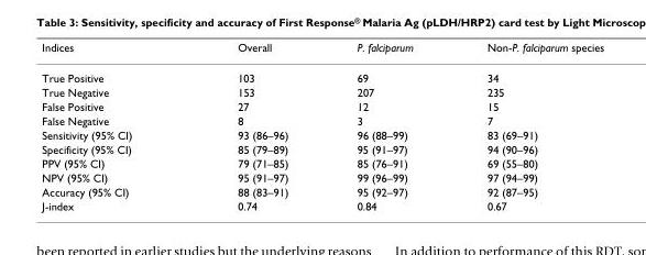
<table><thead><tr><td>Indices</td><td>Overall</td><td>P. falciparum</td><td>Non-P. falciparum species</td></tr></thead><tbody><tr><td>True Positive</td><td>103</td><td>69</td><td>34</td></tr><tr><td>True Negative</td><td>153</td><td>207</td><td>235</td></tr><tr><td>False Positive</td><td>27</td><td>12</td><td>15</td></tr><tr><td>False Negative</td><td>8</td><td>3</td><td>7</td></tr><tr><td>Sensitivity (95% CI)</td><td>93 (86–96)</td><td>96 (88–99)</td><td>83 (69–91)</td></tr><tr><td>Specificity (95% CI)</td><td>85 (79–89)</td><td>95 (91–97)</td><td>94 (90–96)</td></tr><tr><td>PPV (95% CI)</td><td>79 (71–85)</td><td>85 (76–91)</td><td>69 (55–80)</td></tr><tr><td>NPV (95% CI)</td><td>95 (91–97)</td><td>99 (96–99)</td><td>97 (94–99)</td></tr><tr><td>Accuracy (95% CI)</td><td>88 (83–91)</td><td>95 (92–97)</td><td>92 (87–95)</td></tr><tr><td>J-index</td><td>0.74</td><td>0.84</td><td>0.67</td></tr></tbody></table>